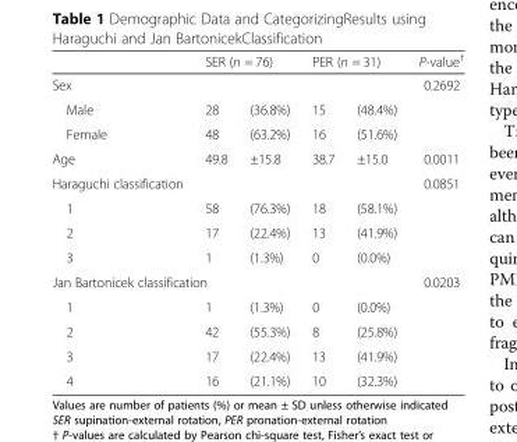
<table><thead><tr><td rowspan="2">Sex</td><td colspan="2">SER (n = 76)</td><td colspan="2">PER (n = 31)</td><td rowspan="2">P-value<sup>†</sup> 0.2692</td></tr><tr><td></td><td></td><td></td><td></td></tr></thead><tbody><tr><td>Male</td><td>28</td><td>(36.8%)</td><td>15</td><td>(48.4%)</td><td></td></tr><tr><td>Female</td><td>48</td><td>(63.2%)</td><td>16</td><td>(51.6%)</td><td></td></tr><tr><td>Age</td><td>49.8</td><td>±15.8</td><td>38.7</td><td>±15.0</td><td>0.0011</td></tr><tr><td>Haraguchi classification</td><td></td><td></td><td></td><td></td><td>0.0851</td></tr><tr><td>1</td><td>58</td><td>(76.3%)</td><td>18</td><td>(58.1%)</td><td></td></tr><tr><td>2</td><td>17</td><td>(22.4%)</td><td>13</td><td>(41.9%)</td><td></td></tr><tr><td>3</td><td>1</td><td>(1.3%)</td><td>0</td><td>(0.0%)</td><td></td></tr><tr><td colspan="2">Jan Bartonicek classification</td><td></td><td></td><td></td><td>0.0203</td></tr><tr><td>1</td><td>1</td><td>(1.3%)</td><td>0</td><td>(0.0%)</td><td></td></tr><tr><td>2</td><td>42</td><td>(55.3%)</td><td>8</td><td>(25.8%)</td><td></td></tr><tr><td>3</td><td>17</td><td>(22.4%)</td><td>13</td><td>(41.9%)</td><td></td></tr><tr><td>4</td><td>16</td><td>(21.1%)</td><td>10</td><td>(32.3%)</td><td></td></tr></tbody></table>